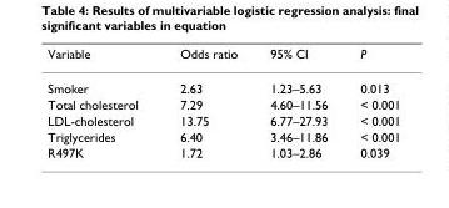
<table><thead><tr><td>Variable</td><td>Odds ratio</td><td>95% CI</td><td>P</td></tr></thead><tbody><tr><td>Smoker</td><td>2.63</td><td>1.23–5.63</td><td>0.013</td></tr><tr><td>Total cholesterol</td><td>7.29</td><td>4.60–11.56</td><td>&lt; 0.001</td></tr><tr><td>LDL-cholesterol</td><td>13.75</td><td>6.77–27.93</td><td>&lt; 0.001</td></tr><tr><td>Triglycerides</td><td>6.40</td><td>3.46–11.86</td><td>&lt; 0.001</td></tr><tr><td>R497K</td><td>1.72</td><td>1.03–2.86</td><td>0.039</td></tr></tbody></table>